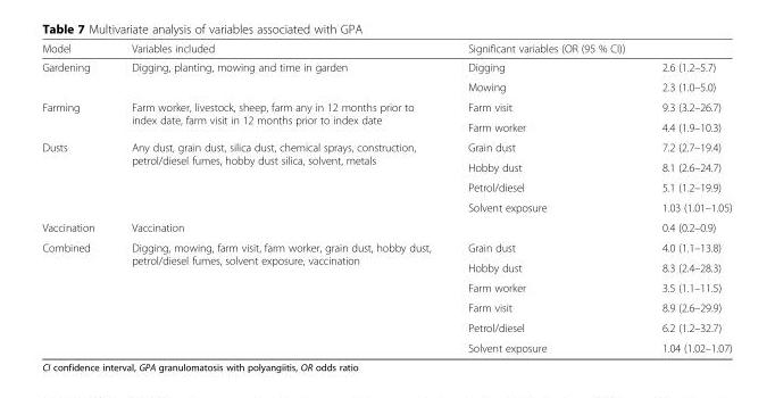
<table><thead><tr><td>Model</td><td>Variables included</td><td>Significant variables (OR (95 % CI))</td><td></td></tr></thead><tbody><tr><td rowspan="2">Gardening</td><td rowspan="2">Digging, planting, mowing and time in garden</td><td>Digging</td><td>2.6 (1.2–5.7)</td></tr><tr><td>Mowing</td><td>2.3 (1.0–5.0)</td></tr><tr><td rowspan="2">Farming</td><td rowspan="2">Farm worker, livestock, sheep, farm any in 12 months prior to index date, farm visit in 12 months prior to index date</td><td>Farm visit</td><td>9.3 (3.2–26.7)</td></tr><tr><td>Farm worker</td><td>4.4 (1.9–10.3)</td></tr><tr><td rowspan="4">Dusts</td><td rowspan="4">Any dust, grain dust, silica dust, chemical sprays, construction, petrol/diesel fumes, hobby dust silica, solvent, metals</td><td>Grain dust</td><td>7.2 (2.7–19.4)</td></tr><tr><td>Hobby dust</td><td>8.1 (2.6–24.7)</td></tr><tr><td>Petrol/diesel</td><td>5.1 (1.2–19.9)</td></tr><tr><td>Solvent exposure</td><td>1.03 (1.01–1.05)</td></tr><tr><td>Vaccination</td><td>Vaccination</td><td></td><td>0.4 (0.2–0.9)</td></tr><tr><td rowspan="6">Combined</td><td rowspan="6">Digging, mowing, farm visit, farm worker, grain dust, hobby dust, petrol/diesel fumes, solvent exposure, vaccination</td><td>Grain dust</td><td>4.0 (1.1–13.8)</td></tr><tr><td>Hobby dust</td><td>8.3 (2.4–28.3)</td></tr><tr><td>Farm worker</td><td>3.5 (1.1–11.5)</td></tr><tr><td>Farm visit</td><td>8.9 (2.6–29.9)</td></tr><tr><td>Petrol/diesel</td><td>6.2 (1.2–32.7)</td></tr><tr><td>Solvent exposure</td><td>1.04 (1.02–1.07)</td></tr></tbody></table>